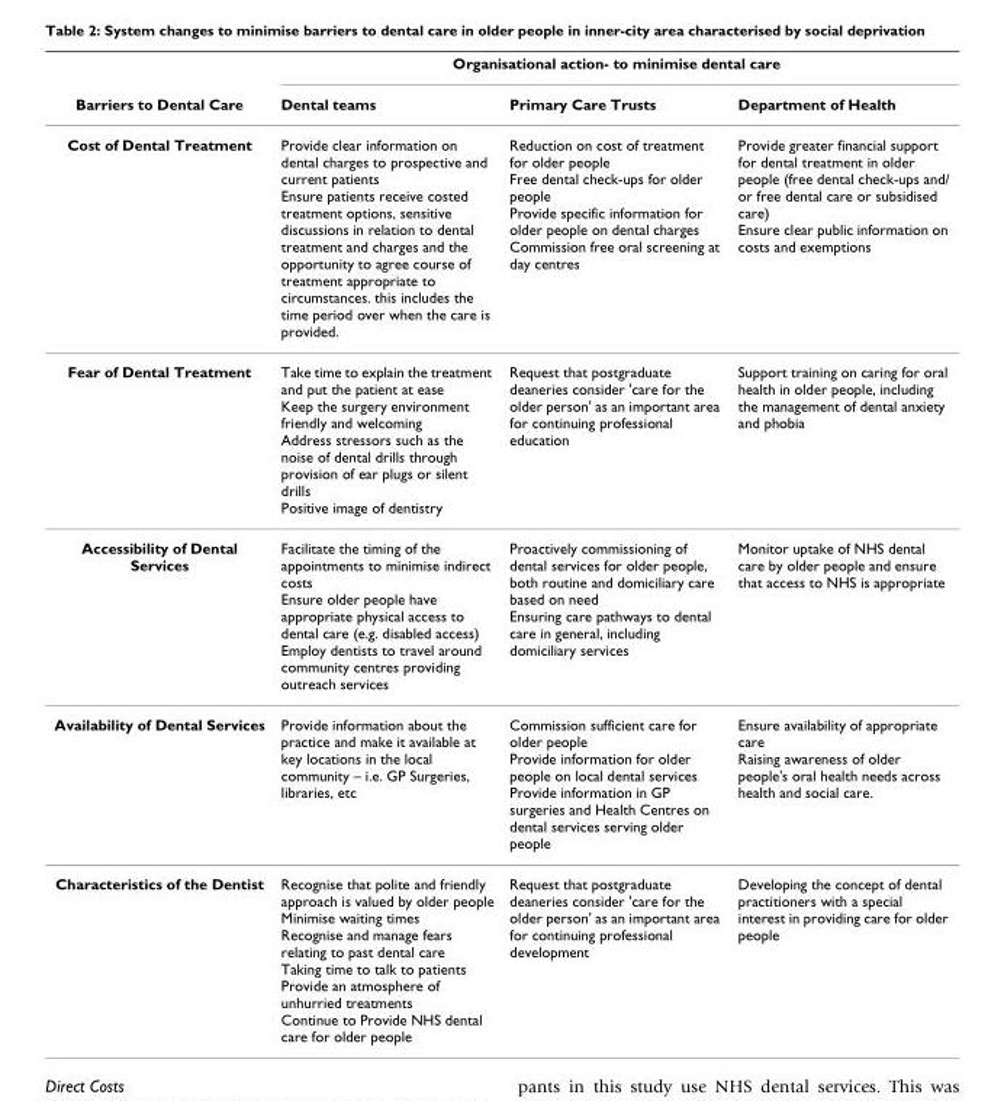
<table><thead><tr><td rowspan="2">Barriers to Dental Care</td><td colspan="3">Organisational action- to minimise dental care</td></tr><tr><td>Dental teams</td><td>Primary Care Trusts</td><td>Department of Health</td></tr></thead><tbody><tr><td>Cost of Dental Treatment</td><td>Provide clear information on dental charges to prospective and current patients Ensure patients receive costed treatment options, sensitive discussions in relation to dental treatment and charges and the opportunity to agree course of treatment appropriate to circumstances. this includes the time period over when the care is provided.</td><td>Reduction on cost of treatment for older people Free dental check-ups for older people Provide specific information for older people on dental charges Commission free oral screening at day centres</td><td>Provide greater financial support for dental treatment in older people (free dental check-ups and/ or free dental care or subsidised care) Ensure clear public information on costs and exemptions</td></tr><tr><td>Fear of Dental Treatment</td><td>Take time to explain the treatment and put the patient at ease Keep the surgery environment friendly and welcoming Address stressors such as the noise of dental drills through provision of ear plugs or silent drills Positive image of dentistry</td><td>Request that postgraduate deaneries consider &#x27;care for the older person&#x27; as an important area for continuing professional education</td><td>Support training on caring for oral health in older people, including the management of dental anxiety and phobia</td></tr><tr><td>Accessibility of Dental Services</td><td>Facilitate the timing of the appointments to minimise indirect costs Ensure older people have appropriate physical access to dental care (e.g. disabled access) Employ dentists to travel around community centres providing outreach services</td><td>Proactively commissioning of dental services for older people, both routine and domiciliary care based on need Ensuring care pathways to dental care in general, including domiciliary services</td><td>Monitor uptake of NHS dental care by older people and ensure that access to NHS is appropriate</td></tr><tr><td>Availability of Dental Services</td><td>Provide information about the practice and make it available at key locations in the local community – i.e. GP Surgeries, libraries, etc</td><td>Commission sufficient care for older people Provide information for older people on local dental services Provide information in GP surgeries and Health Centres on dental services serving older people</td><td>Ensure availability of appropriate care Raising awareness of older people&#x27;s oral health needs across health and social care.</td></tr><tr><td>Characteristics of the Dentist</td><td>Recognise that polite and friendly approach is valued by older people Minimise waiting times Recognise and manage fears relating to past dental care Taking time to talk to patients Provide an atmosphere of unhurried treatments Continue to Provide NHS dental care for older people</td><td>Request that postgraduate deaneries consider &#x27;care for the older person&#x27; as an important area for continuing professional development</td><td>Developing the concept of dental practitioners with a special interest in providing care for older people</td></tr></tbody></table>